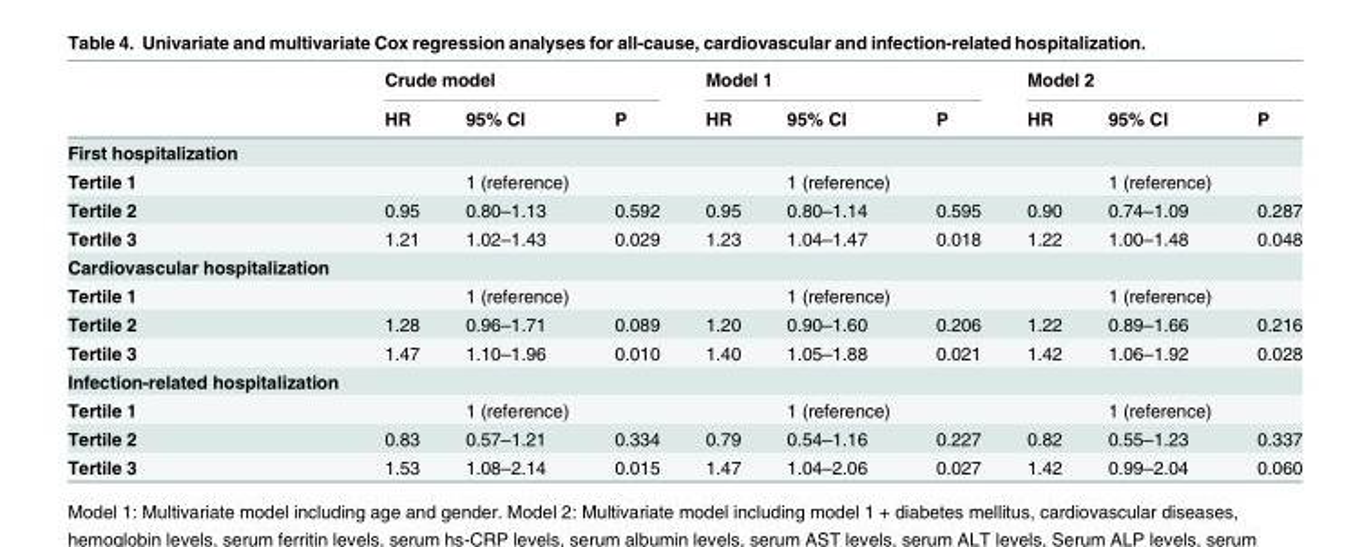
<table><thead><tr><td rowspan="2"></td><td colspan="3">Crude model</td><td colspan="3">Model 1</td><td colspan="3">Model 2</td></tr><tr><td>HR</td><td>95% CI</td><td>P</td><td>HR</td><td>95% CI</td><td>P</td><td>HR</td><td>95% CI</td><td>P</td></tr></thead><tbody><tr><td colspan="10">First hospitalization</td></tr><tr><td>Tertile 1</td><td></td><td>1 (reference)</td><td></td><td></td><td>1 (reference)</td><td></td><td></td><td>1 (reference)</td><td></td></tr><tr><td>Tertile 2</td><td>0.95</td><td>0.80–1.13</td><td>0.592</td><td>0.95</td><td>0.80–1.14</td><td>0.595</td><td>0.90</td><td>0.74–1.09</td><td>0.287</td></tr><tr><td>Tertile 3</td><td>1.21</td><td>1.02–1.43</td><td>0.029</td><td>1.23</td><td>1.04–1.47</td><td>0.018</td><td>1.22</td><td>1.00–1.48</td><td>0.048</td></tr><tr><td colspan="10">Cardiovascular hospitalization</td></tr><tr><td>Tertile 1</td><td></td><td>1 (reference)</td><td></td><td></td><td>1 (reference)</td><td></td><td></td><td>1 (reference)</td><td></td></tr><tr><td>Tertile 2</td><td>1.28</td><td>0.96–1.71</td><td>0.089</td><td>1.20</td><td>0.90–1.60</td><td>0.206</td><td>1.22</td><td>0.89–1.66</td><td>0.216</td></tr><tr><td>Tertile 3</td><td>1.47</td><td>1.10–1.96</td><td>0.010</td><td>1.40</td><td>1.05–1.88</td><td>0.021</td><td>1.42</td><td>1.06–1.92</td><td>0.028</td></tr><tr><td colspan="10">Infection-related hospitalization</td></tr><tr><td>Tertile 1</td><td></td><td>1 (reference)</td><td></td><td></td><td>1 (reference)</td><td></td><td></td><td>1 (reference)</td><td></td></tr><tr><td>Tertile 2</td><td>0.83</td><td>0.57–1.21</td><td>0.334</td><td>0.79</td><td>0.54–1.16</td><td>0.227</td><td>0.82</td><td>0.55–1.23</td><td>0.337</td></tr><tr><td>Tertile 3</td><td>1.53</td><td>1.08–2.14</td><td>0.015</td><td>1.47</td><td>1.04–2.06</td><td>0.027</td><td>1.42</td><td>0.99–2.04</td><td>0.060</td></tr></tbody></table>